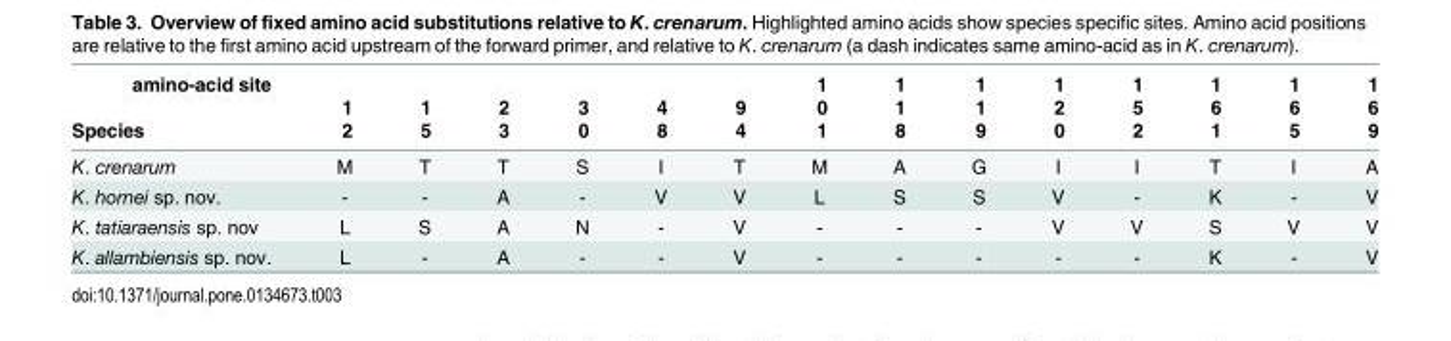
<table><thead><tr><td rowspan="3">amino-acid site Species</td><td rowspan="3">1 2</td><td rowspan="3">1 5</td><td rowspan="3">2 3</td><td rowspan="3">3 0</td><td rowspan="3">4 8</td><td rowspan="3">9 4</td><td rowspan="3">1 0 1</td><td rowspan="3">1 1 8</td><td rowspan="3">1 1 9</td><td rowspan="3">1 2 0</td><td rowspan="3">1 5 2</td><td rowspan="3">1 6 1</td><td rowspan="3">1 6 5</td><td rowspan="3">1 6 9</td></tr><tr></tr><tr></tr></thead><tbody><tr><td>K. crenarum</td><td>M</td><td>T</td><td>T</td><td>S</td><td>I</td><td>T</td><td>M</td><td>A</td><td>G</td><td>I</td><td>I</td><td>T</td><td>I</td><td>A</td></tr><tr><td>K. hornei sp. nov.</td><td>-</td><td>-</td><td>A</td><td>-</td><td>V</td><td>V</td><td>L</td><td>S</td><td>S</td><td>V</td><td>-</td><td>K</td><td>-</td><td>V</td></tr><tr><td>K. tatiaraensis sp. nov</td><td>L</td><td>S</td><td>A</td><td>N</td><td>-</td><td>V</td><td>-</td><td>-</td><td>-</td><td>V</td><td>V</td><td>S</td><td>V</td><td>V</td></tr><tr><td>K. allambiensis sp. nov.</td><td>L</td><td>-</td><td>A</td><td>-</td><td>-</td><td>V</td><td>-</td><td>-</td><td>-</td><td>-</td><td>-</td><td>K</td><td>-</td><td>V</td></tr></tbody></table>